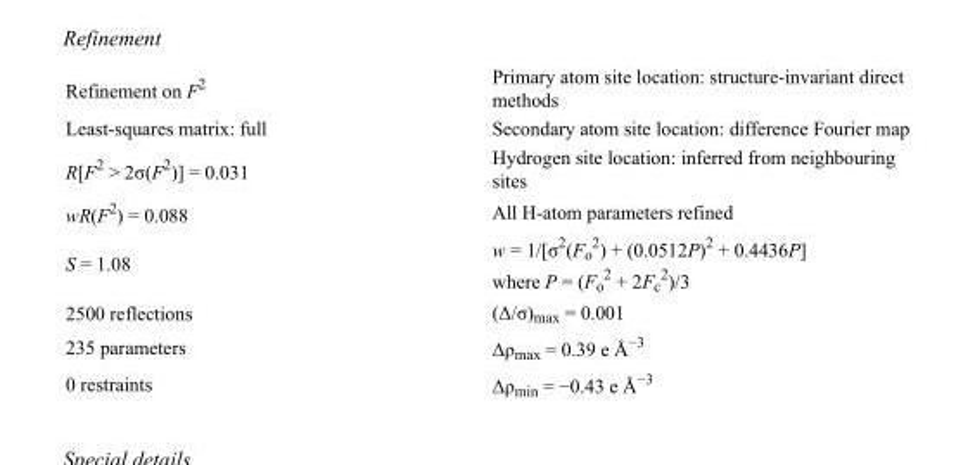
<table><tbody><tr><td>Refinement on F<sup>2</sup></td><td>Primary atom site location: structure-invariant direct methods</td></tr><tr><td>Least-squares matrix: full</td><td>Secondary atom site location: difference Fourier map</td></tr><tr><td>R[F<sup>2</sup> &gt; 2σ(F<sup>2</sup>)] = 0.031</td><td>Hydrogen site location: inferred from neighbouring sites</td></tr><tr><td>wR(F<sup>2</sup>) = 0.088</td><td>All H-atom parameters refined</td></tr><tr><td>S = 1.08</td><td>w = 1/[σ<sup>2</sup>(F<sub>o</sub> <sup>2</sup>) + (0.0512P)<sup>2</sup> + 0.4436P] where P = (F<sub>o</sub> <sup>2</sup> + 2F<sub>c</sub> <sup>2</sup>)/3</td></tr><tr><td>2500 reflections</td><td>(Δ/σ)<sub>max</sub> = 0.001</td></tr><tr><td>235 parameters</td><td>Δρ<sub>max</sub> = 0.39 e Å<sup>−3</sup></td></tr><tr><td>0 restraints</td><td>Δρ<sub>min</sub> = −0.43 e Å<sup>−3</sup></td></tr></tbody></table>